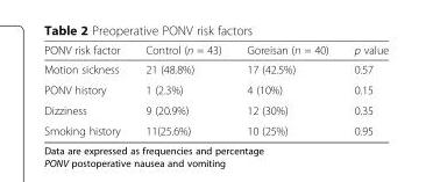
<table><thead><tr><td>PONV risk factor</td><td>Control (n = 43)</td><td>Goreisan (n = 40)</td><td>p value</td></tr></thead><tbody><tr><td>Motion sickness</td><td>21 (48.8%)</td><td>17 (42.5%)</td><td>0.57</td></tr><tr><td>PONV history</td><td>1 (2.3%)</td><td>4 (10%)</td><td>0.15</td></tr><tr><td>Dizziness</td><td>9 (20.9%)</td><td>12 (30%)</td><td>0.35</td></tr><tr><td>Smoking history</td><td>11(25.6%)</td><td>10 (25%)</td><td>0.95</td></tr></tbody></table>